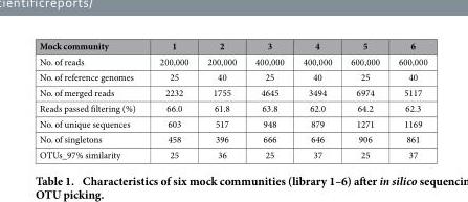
<table><thead><tr><td>Mock community</td><td>1</td><td>2</td><td>3</td><td>4</td><td>5</td><td>6</td></tr></thead><tbody><tr><td>No. of reads</td><td>200,000</td><td>200,000</td><td>400,000</td><td>400,000</td><td>600,000</td><td>600,000</td></tr><tr><td>No. of reference genomes</td><td>25</td><td>40</td><td>25</td><td>40</td><td>25</td><td>40</td></tr><tr><td>No. of merged reads</td><td>2232</td><td>1755</td><td>4645</td><td>3494</td><td>6974</td><td>5117</td></tr><tr><td>Reads passed filtering (%)</td><td>66.0</td><td>61.8</td><td>63.8</td><td>62.0</td><td>64.2</td><td>62.3</td></tr><tr><td>No. of unique sequences</td><td>603</td><td>517</td><td>948</td><td>879</td><td>1271</td><td>1169</td></tr><tr><td>No. of singletons</td><td>458</td><td>396</td><td>666</td><td>646</td><td>906</td><td>861</td></tr><tr><td>OTUs_97% similarity</td><td>25</td><td>36</td><td>25</td><td>37</td><td>25</td><td>37</td></tr></tbody></table>